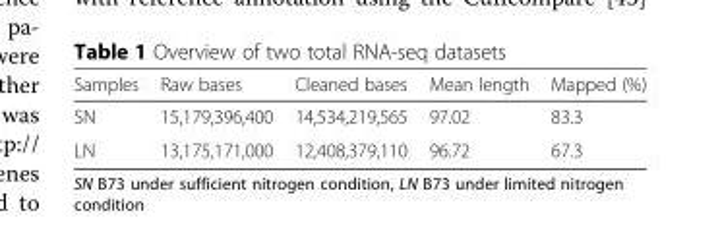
<table><thead><tr><td>Samples</td><td>Raw bases</td><td>Cleaned bases</td><td>Mean length</td><td>Mapped (%)</td></tr></thead><tbody><tr><td>SN</td><td>15,179,396,400</td><td>14,534,219,565</td><td>97.02</td><td>83.3</td></tr><tr><td>LN</td><td>13,175,171,000</td><td>12,408,379,110</td><td>96.72</td><td>67.3</td></tr></tbody></table>